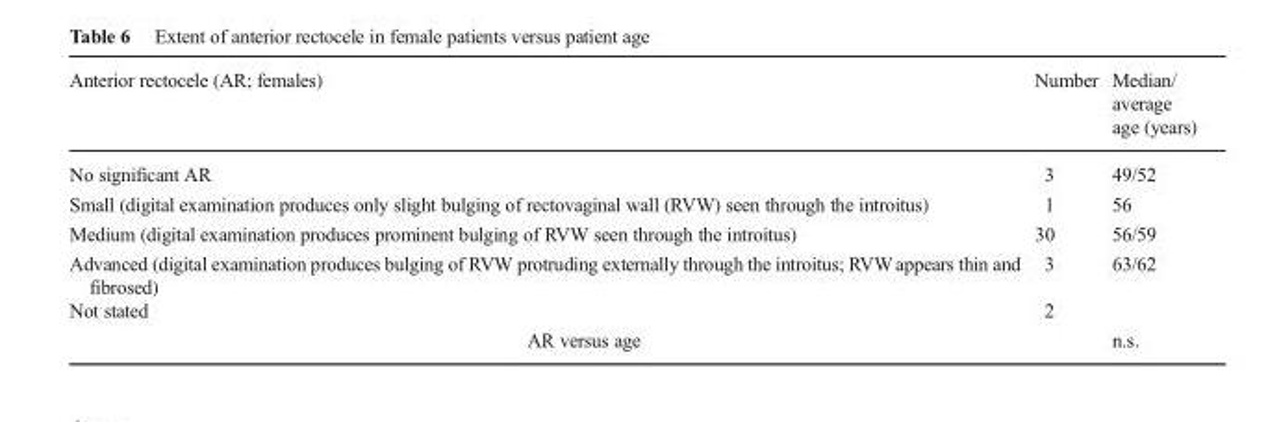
<table><thead><tr><td>Anterior rectocele (AR; females)</td><td>Number</td><td>Median/ average age (years)</td></tr></thead><tbody><tr><td>No significant AR</td><td>3</td><td>49/52</td></tr><tr><td>Small (digital examination produces only slight bulging of rectovaginal wall (RVW) seen through the introitus)</td><td>1</td><td>56</td></tr><tr><td>Medium (digital examination produces prominent bulging of RVW seen through the introitus)</td><td>30</td><td>56/59</td></tr><tr><td>Advanced (digital examination produces bulging of RVW protruding externally through the introitus; RVWappears thin and fibrosed)</td><td>3</td><td>63/62</td></tr><tr><td>Not stated</td><td>2</td><td></td></tr><tr><td colspan="2">AR versus age</td><td>n.s.</td></tr></tbody></table>